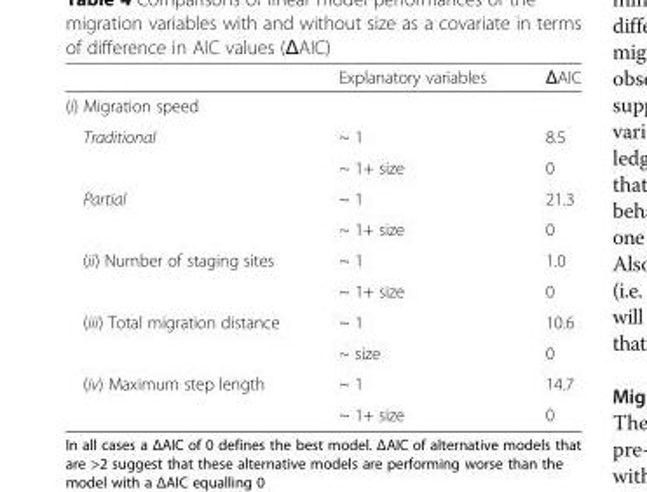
<table><thead><tr><td></td><td>Explanatory variables</td><td>ΔAIC</td></tr></thead><tbody><tr><td colspan="3">(i) Migration speed</td></tr><tr><td rowspan="2">Traditional</td><td>~ 1</td><td>8.5</td></tr><tr><td>~ 1+ size</td><td>0</td></tr><tr><td rowspan="2">Partial</td><td>~ 1</td><td>21.3</td></tr><tr><td>~ 1+ size</td><td>0</td></tr><tr><td rowspan="2">(ii) Number of staging sites</td><td>~ 1</td><td>1.0</td></tr><tr><td>~ 1+ size</td><td>0</td></tr><tr><td rowspan="2">(iii) Total migration distance</td><td>~ 1</td><td>10.6</td></tr><tr><td>~ size</td><td>0</td></tr><tr><td rowspan="2">(iv) Maximum step length</td><td>~ 1</td><td>14.7</td></tr><tr><td>~ 1+ size</td><td>0</td></tr></tbody></table>